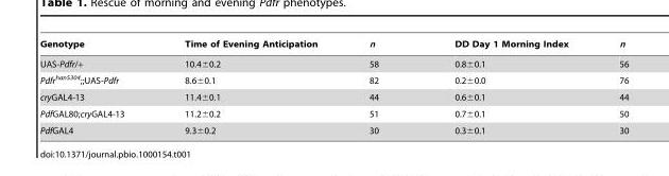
<table><thead><tr><td>Genotype</td><td>Time of Evening Anticipation</td><td>n</td><td>DD Day 1 Morning Index</td><td>n</td></tr></thead><tbody><tr><td>UAS-Pdfr/+</td><td>10.4±0.2</td><td>58</td><td>0.8±0.1</td><td>56</td></tr><tr><td>Pdfr<sup>han5304</sup>;;UAS-Pdfr</td><td>8.6±0.1</td><td>82</td><td>0.2±0.0</td><td>76</td></tr><tr><td>cryGAL4-13</td><td>11.4±0.1</td><td>44</td><td>0.6±0.1</td><td>44</td></tr><tr><td>PdfGAL80;cryGAL4-13</td><td>11.2±0.2</td><td>51</td><td>0.7±0.1</td><td>50</td></tr><tr><td>PdfGAL4</td><td>9.3±0.2</td><td>30</td><td>0.3±0.1</td><td>30</td></tr></tbody></table>